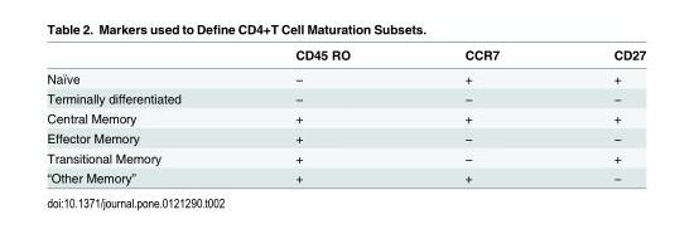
<table><thead><tr><td></td><td>CD45 RO</td><td>CCR7</td><td>CD27</td></tr></thead><tbody><tr><td>Naïve</td><td>−</td><td>+</td><td>+</td></tr><tr><td>Terminally differentiated</td><td>−</td><td>−</td><td>−</td></tr><tr><td>Central Memory</td><td>+</td><td>+</td><td>+</td></tr><tr><td>Effector Memory</td><td>+</td><td>−</td><td>−</td></tr><tr><td>Transitional Memory</td><td>+</td><td>−</td><td>+</td></tr><tr><td>“Other Memory”</td><td>+</td><td>+</td><td>−</td></tr></tbody></table>